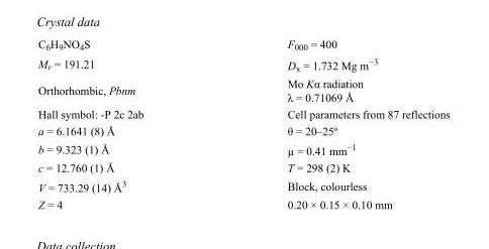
<table><tbody><tr><td>C<sub>6</sub>H<sub>9</sub>NO<sub>4</sub>S</td><td>F<sub>000</sub> = 400</td></tr><tr><td>M<sub>r</sub> = 191.21</td><td>D<sub>x</sub> = 1.732 Mg m<sup>−3</sup></td></tr><tr><td>Orthorhombic, Pbnm</td><td>Mo Kα radiation λ = 0.71069 Å</td></tr><tr><td>Hall symbol: -P 2c 2ab</td><td>Cell parameters from 87 reflections</td></tr><tr><td>a = 6.1641 (8) Å</td><td>θ = 20–25º</td></tr><tr><td>b = 9.323 (1) Å</td><td>µ = 0.41 mm<sup>−1</sup></td></tr><tr><td>c = 12.760 (1) Å</td><td>T = 298 (2) K</td></tr><tr><td>V = 733.29 (14) Å<sup>3</sup></td><td>Block, colourless</td></tr><tr><td>Z = 4</td><td>0.20 × 0.15 × 0.10 mm</td></tr></tbody></table>